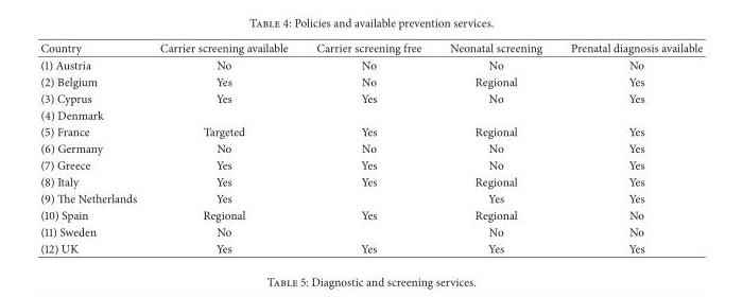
<table><thead><tr><td>Country</td><td>Carrier screening available</td><td>Carrier screening free</td><td>Neonatal screening</td><td>Prenatal diagnosis available</td></tr></thead><tbody><tr><td>(1) Austria</td><td>No</td><td>No</td><td>No</td><td>No</td></tr><tr><td>(2) Belgium</td><td>Yes</td><td>No</td><td>Regional</td><td>Yes</td></tr><tr><td>(3) Cyprus</td><td>Yes</td><td>Yes</td><td>No</td><td>Yes</td></tr><tr><td colspan="5">(4) Denmark</td></tr><tr><td>(5) France</td><td>Targeted</td><td>Yes</td><td>Regional</td><td>Yes</td></tr><tr><td>(6) Germany</td><td>No</td><td>No</td><td>No</td><td>Yes</td></tr><tr><td>(7) Greece</td><td>Yes</td><td>Yes</td><td>No</td><td>Yes</td></tr><tr><td>(8) Italy</td><td>Yes</td><td>Yes</td><td>Regional</td><td>Yes</td></tr><tr><td>(9) The Netherlands</td><td>Yes</td><td></td><td>Yes</td><td>Yes</td></tr><tr><td>(10) Spain</td><td>Regional</td><td>Yes</td><td>Regional</td><td>No</td></tr><tr><td>(11) Sweden</td><td>No</td><td></td><td>No</td><td>No</td></tr><tr><td>(12) UK</td><td>Yes</td><td>Yes</td><td>Yes</td><td>Yes</td></tr></tbody></table>